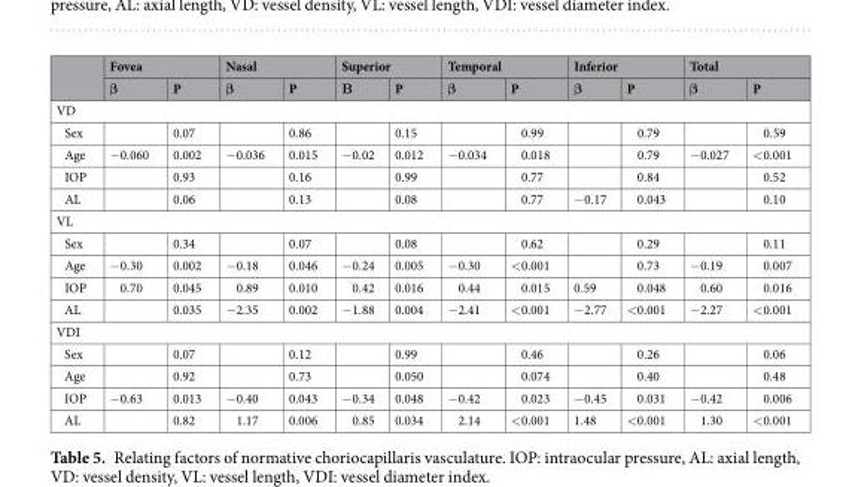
<table><thead><tr><td rowspan="2"></td><td colspan="2">Fovea</td><td colspan="2">Nasal</td><td colspan="2">Superior</td><td colspan="2">Temporal</td><td colspan="2">Inferior</td><td colspan="2">Total</td></tr><tr><td>β</td><td>P</td><td>β</td><td>P</td><td>Β</td><td>P</td><td>β</td><td>P</td><td>β</td><td>P</td><td>β</td><td>P</td></tr></thead><tbody><tr><td colspan="13">VD</td></tr><tr><td>Sex</td><td></td><td>0.07</td><td></td><td>0.86</td><td></td><td>0.15</td><td></td><td>0.99</td><td></td><td>0.79</td><td></td><td>0.59</td></tr><tr><td>Age</td><td>−0.060</td><td>0.002</td><td>−0.036</td><td>0.015</td><td>−0.02</td><td>0.012</td><td>−0.034</td><td>0.018</td><td></td><td>0.79</td><td>−0.027</td><td>&lt;0.001</td></tr><tr><td>IOP</td><td></td><td>0.93</td><td></td><td>0.16</td><td></td><td>0.99</td><td></td><td>0.77</td><td></td><td>0.84</td><td></td><td>0.52</td></tr><tr><td>AL</td><td></td><td>0.06</td><td></td><td>0.13</td><td></td><td>0.08</td><td></td><td>0.77</td><td>−0.17</td><td>0.043</td><td></td><td>0.10</td></tr><tr><td colspan="13">VL</td></tr><tr><td>Sex</td><td></td><td>0.34</td><td></td><td>0.07</td><td></td><td>0.08</td><td></td><td>0.62</td><td></td><td>0.29</td><td></td><td>0.11</td></tr><tr><td>Age</td><td>−0.30</td><td>0.002</td><td>−0.18</td><td>0.046</td><td>−0.24</td><td>0.005</td><td>−0.30</td><td>&lt;0.001</td><td></td><td>0.73</td><td>−0.19</td><td>0.007</td></tr><tr><td>IOP</td><td>0.70</td><td>0.045</td><td>0.89</td><td>0.010</td><td>0.42</td><td>0.016</td><td>0.44</td><td>0.015</td><td>0.59</td><td>0.048</td><td>0.60</td><td>0.016</td></tr><tr><td>AL</td><td></td><td>0.035</td><td>−2.35</td><td>0.002</td><td>−1.88</td><td>0.004</td><td>−2.41</td><td>&lt;0.001</td><td>−2.77</td><td>&lt;0.001</td><td>−2.27</td><td>&lt;0.001</td></tr><tr><td colspan="13">VDI</td></tr><tr><td>Sex</td><td></td><td>0.07</td><td></td><td>0.12</td><td></td><td>0.99</td><td></td><td>0.46</td><td></td><td>0.26</td><td></td><td>0.06</td></tr><tr><td>Age</td><td></td><td>0.92</td><td></td><td>0.73</td><td></td><td>0.050</td><td></td><td>0.074</td><td></td><td>0.40</td><td></td><td>0.48</td></tr><tr><td>IOP</td><td>−0.63</td><td>0.013</td><td>−0.40</td><td>0.043</td><td>−0.34</td><td>0.048</td><td>−0.42</td><td>0.023</td><td>−0.45</td><td>0.031</td><td>−0.42</td><td>0.006</td></tr><tr><td>AL</td><td></td><td>0.82</td><td>1.17</td><td>0.006</td><td>0.85</td><td>0.034</td><td>2.14</td><td>&lt;0.001</td><td>1.48</td><td>&lt;0.001</td><td>1.30</td><td>&lt;0.001</td></tr></tbody></table>